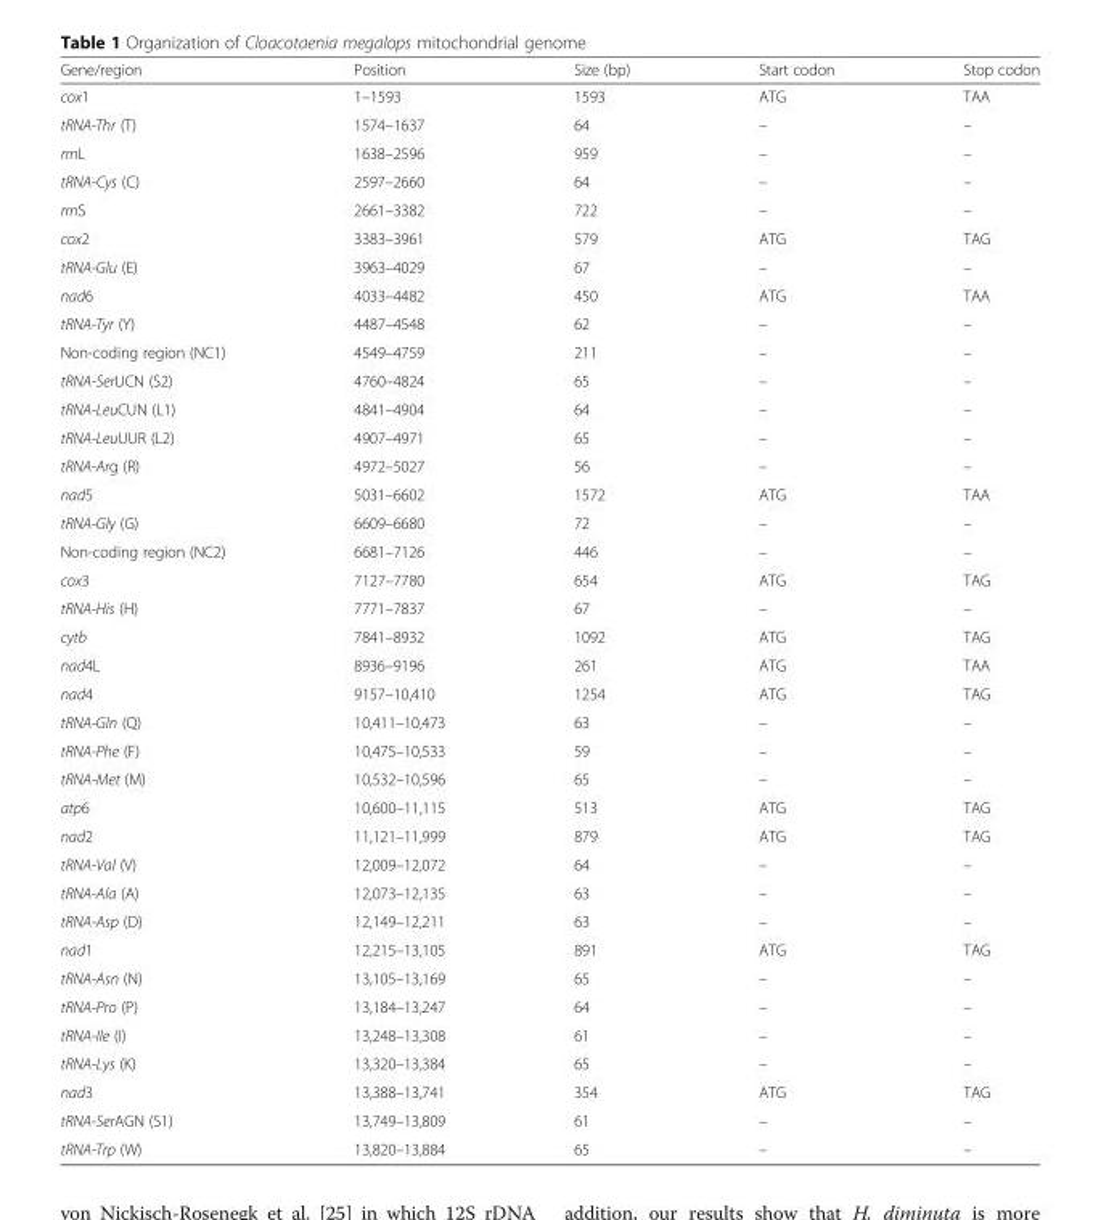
<table><thead><tr><td>Gene/region</td><td>Position</td><td>Size (bp)</td><td>Start codon</td><td>Stop codon</td></tr></thead><tbody><tr><td>cox1</td><td>1–1593</td><td>1593</td><td>ATG</td><td>TAA</td></tr><tr><td>tRNA-Thr (T)</td><td>1574–1637</td><td>64</td><td>–</td><td>–</td></tr><tr><td>rrnL</td><td>1638–2596</td><td>959</td><td>–</td><td>–</td></tr><tr><td>tRNA-Cys (C)</td><td>2597–2660</td><td>64</td><td>–</td><td>–</td></tr><tr><td>rrnS</td><td>2661–3382</td><td>722</td><td>–</td><td>–</td></tr><tr><td>cox2</td><td>3383–3961</td><td>579</td><td>ATG</td><td>TAG</td></tr><tr><td>tRNA-Glu (E)</td><td>3963–4029</td><td>67</td><td>–</td><td>–</td></tr><tr><td>nad6</td><td>4033–4482</td><td>450</td><td>ATG</td><td>TAA</td></tr><tr><td>tRNA-Tyr (Y)</td><td>4487–4548</td><td>62</td><td>–</td><td>–</td></tr><tr><td>Non-coding region (NC1)</td><td>4549–4759</td><td>211</td><td>–</td><td>–</td></tr><tr><td>tRNA-SerUCN (S2)</td><td>4760–4824</td><td>65</td><td>–</td><td>–</td></tr><tr><td>tRNA-LeuCUN (L1)</td><td>4841–4904</td><td>64</td><td>–</td><td>–</td></tr><tr><td>tRNA-LeuUUR (L2)</td><td>4907–4971</td><td>65</td><td>–</td><td>–</td></tr><tr><td>tRNA-Arg (R)</td><td>4972–5027</td><td>56</td><td>–</td><td>–</td></tr><tr><td>nad5</td><td>5031–6602</td><td>1572</td><td>ATG</td><td>TAA</td></tr><tr><td>tRNA-Gly (G)</td><td>6609–6680</td><td>72</td><td>–</td><td>–</td></tr><tr><td>Non-coding region (NC2)</td><td>6681–7126</td><td>446</td><td>–</td><td>–</td></tr><tr><td>cox3</td><td>7127–7780</td><td>654</td><td>ATG</td><td>TAG</td></tr><tr><td>tRNA-His (H)</td><td>7771–7837</td><td>67</td><td>–</td><td>–</td></tr><tr><td>cytb</td><td>7841–8932</td><td>1092</td><td>ATG</td><td>TAG</td></tr><tr><td>nad4L</td><td>8936–9196</td><td>261</td><td>ATG</td><td>TAA</td></tr><tr><td>nad4</td><td>9157–10,410</td><td>1254</td><td>ATG</td><td>TAG</td></tr><tr><td>tRNA-Gln (Q)</td><td>10,411–10,473</td><td>63</td><td>–</td><td>–</td></tr><tr><td>tRNA-Phe (F)</td><td>10,475–10,533</td><td>59</td><td>–</td><td>–</td></tr><tr><td>tRNA-Met (M)</td><td>10,532–10,596</td><td>65</td><td>–</td><td>–</td></tr><tr><td>atp6</td><td>10,600–11,115</td><td>513</td><td>ATG</td><td>TAG</td></tr><tr><td>nad2</td><td>11,121–11,999</td><td>879</td><td>ATG</td><td>TAG</td></tr><tr><td>tRNA-Val (V)</td><td>12,009–12,072</td><td>64</td><td>–</td><td>–</td></tr><tr><td>tRNA-Ala (A)</td><td>12,073–12,135</td><td>63</td><td>–</td><td>–</td></tr><tr><td>tRNA-Asp (D)</td><td>12,149–12,211</td><td>63</td><td>–</td><td>–</td></tr><tr><td>nad1</td><td>12,215–13,105</td><td>891</td><td>ATG</td><td>TAG</td></tr><tr><td>tRNA-Asn (N)</td><td>13,105–13,169</td><td>65</td><td>–</td><td>–</td></tr><tr><td>tRNA-Pro (P)</td><td>13,184–13,247</td><td>64</td><td>–</td><td>–</td></tr><tr><td>tRNA-Ile (I)</td><td>13,248–13,308</td><td>61</td><td>–</td><td>–</td></tr><tr><td>tRNA-Lys (K)</td><td>13,320–13,384</td><td>65</td><td>–</td><td>–</td></tr><tr><td>nad3</td><td>13,388–13,741</td><td>354</td><td>ATG</td><td>TAG</td></tr><tr><td>tRNA-SerAGN (S1)</td><td>13,749–13,809</td><td>61</td><td>–</td><td>–</td></tr><tr><td>tRNA-Trp (W)</td><td>13,820–13,884</td><td>65</td><td>–</td><td>–</td></tr></tbody></table>